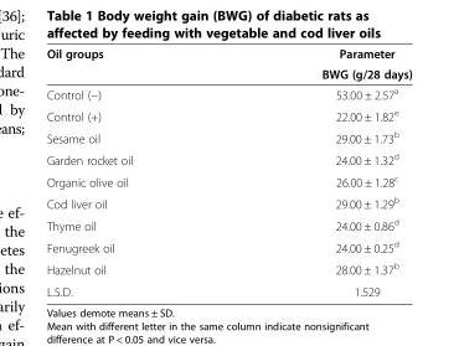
<table><thead><tr><td rowspan="2">Oil groups</td><td rowspan="2">Parameter BWG (g/28 days)</td></tr><tr></tr></thead><tbody><tr><td>Control (−)</td><td>53.00 ± 2.57<sup>a</sup></td></tr><tr><td>Control (+)</td><td>22.00 ± 1.82<sup>e</sup></td></tr><tr><td>Sesame oil</td><td>29.00 ± 1.73<sup>b</sup></td></tr><tr><td>Garden rocket oil</td><td>24.00 ± 1.32<sup>d</sup></td></tr><tr><td>Organic olive oil</td><td>26.00 ± 1.28<sup>c</sup></td></tr><tr><td>Cod liver oil</td><td>29.00 ± 1.29<sup>b</sup></td></tr><tr><td>Thyme oil</td><td>24.00 ± 0.86<sup>d</sup></td></tr><tr><td>Fenugreek oil</td><td>24.00 ± 0.25<sup>d</sup></td></tr><tr><td>Hazelnut oil</td><td>28.00 ± 1.37<sup>b</sup></td></tr><tr><td>L.S.D.</td><td>1.529</td></tr></tbody></table>